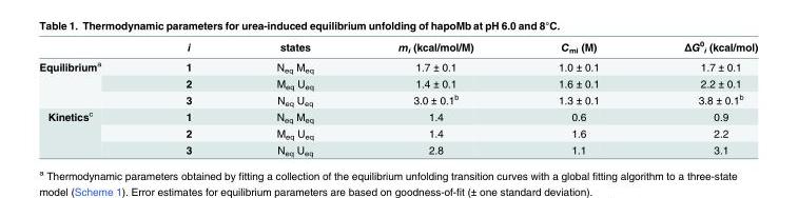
<table><thead><tr><td></td><td>i</td><td>states</td><td>m<sub>i</sub> (kcal/mol/M)</td><td>C<sub>mi</sub> (M)</td><td>ΔG<sup>0</sup> <sub>i</sub> (kcal/mol)</td></tr></thead><tbody><tr><td rowspan="3">Equilibrium<sup>a</sup></td><td>1</td><td>N<sub>eq</sub> M<sub>eq</sub></td><td>1.7 ± 0.1</td><td>1.0 ± 0.1</td><td>1.7 ± 0.1</td></tr><tr><td>2</td><td>M<sub>eq</sub> U<sub>eq</sub></td><td>1.4 ± 0.1</td><td>1.6 ± 0.1</td><td>2.2 ± 0.1</td></tr><tr><td>3</td><td>N<sub>eq</sub> U<sub>eq</sub></td><td>3.0 ± 0.1<sup>b</sup></td><td>1.3 ± 0.1</td><td>3.8 ± 0.1<sup>b</sup></td></tr><tr><td rowspan="3">Kinetics<sup>c</sup></td><td>1</td><td>N<sub>eq</sub> M<sub>eq</sub></td><td>1.4</td><td>0.6</td><td>0.9</td></tr><tr><td>2</td><td>M<sub>eq</sub> U<sub>eq</sub></td><td>1.4</td><td>1.6</td><td>2.2</td></tr><tr><td>3</td><td>N<sub>eq</sub> U<sub>eq</sub></td><td>2.8</td><td>1.1</td><td>3.1</td></tr></tbody></table>